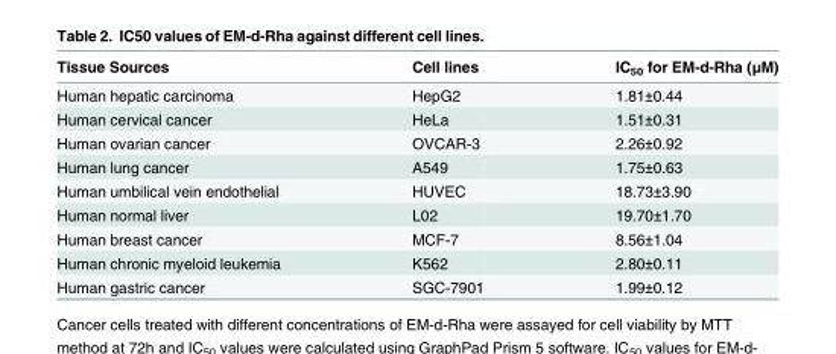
<table><thead><tr><td>Tissue Sources</td><td>Cell lines</td><td>IC<sub>50</sub> for EM-d-Rha (μM)</td></tr></thead><tbody><tr><td>Human hepatic carcinoma</td><td>HepG2</td><td>1.81±0.44</td></tr><tr><td>Human cervical cancer</td><td>HeLa</td><td>1.51±0.31</td></tr><tr><td>Human ovarian cancer</td><td>OVCAR-3</td><td>2.26±0.92</td></tr><tr><td>Human lung cancer</td><td>A549</td><td>1.75±0.63</td></tr><tr><td>Human umbilical vein endothelial</td><td>HUVEC</td><td>18.73±3.90</td></tr><tr><td>Human normal liver</td><td>L02</td><td>19.70±1.70</td></tr><tr><td>Human breast cancer</td><td>MCF-7</td><td>8.56±1.04</td></tr><tr><td>Human chronic myeloid leukemia</td><td>K562</td><td>2.80±0.11</td></tr><tr><td>Human gastric cancer</td><td>SGC-7901</td><td>1.99±0.12</td></tr></tbody></table>